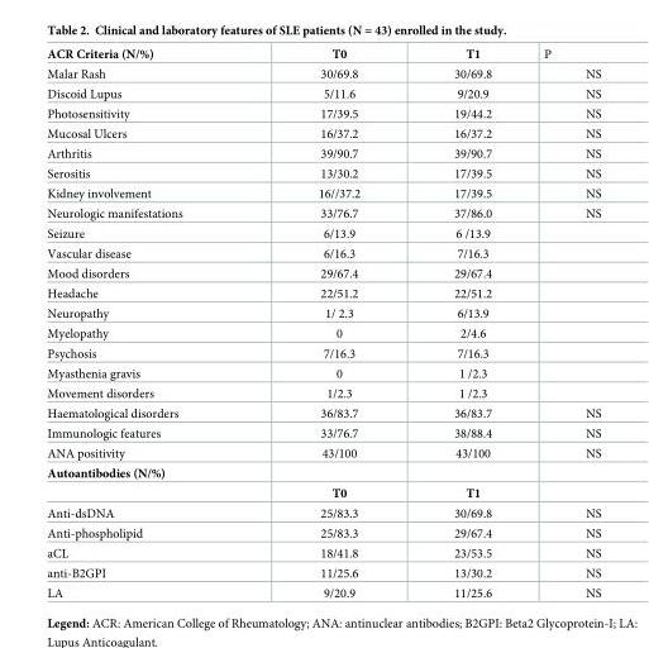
<table><tbody><tr><td>ACR Criteria (N/%)</td><td>T0</td><td>T1</td><td>P</td></tr><tr><td>Malar Rash</td><td>30/69.8</td><td>30/69.8</td><td>NS</td></tr><tr><td>Discoid Lupus</td><td>5/11.6</td><td>9/20.9</td><td>NS</td></tr><tr><td>Photosensitivity</td><td>17/39.5</td><td>19/44.2</td><td>NS</td></tr><tr><td>Mucosal Ulcers</td><td>16/37.2</td><td>16/37.2</td><td>NS</td></tr><tr><td>Arthritis</td><td>39/90.7</td><td>39/90.7</td><td>NS</td></tr><tr><td>Serositis</td><td>13/30.2</td><td>17/39.5</td><td>NS</td></tr><tr><td>Kidney involvement</td><td>16//37.2</td><td>17/39.5</td><td>NS</td></tr><tr><td>Neurologic manifestations</td><td>33/76.7</td><td>37/86.0</td><td>NS</td></tr><tr><td>Seizure</td><td>6/13.9</td><td>6 /13.9</td><td></td></tr><tr><td>Vascular disease</td><td>6/16.3</td><td>7/16.3</td><td></td></tr><tr><td>Mood disorders</td><td>29/67.4</td><td>29/67.4</td><td></td></tr><tr><td>Headache</td><td>22/51.2</td><td>22/51.2</td><td></td></tr><tr><td>Neuropathy</td><td>1/ 2.3</td><td>6/13.9</td><td></td></tr><tr><td>Myelopathy</td><td>0</td><td>2/4.6</td><td></td></tr><tr><td>Psychosis</td><td>7/16.3</td><td>7/16.3</td><td></td></tr><tr><td>Myasthenia gravis</td><td>0</td><td>1 /2.3</td><td></td></tr><tr><td>Movement disorders</td><td>1/2.3</td><td>1 /2.3</td><td></td></tr><tr><td>Haematological disorders</td><td>36/83.7</td><td>36/83.7</td><td>NS</td></tr><tr><td>Immunologic features</td><td>33/76.7</td><td>38/88.4</td><td>NS</td></tr><tr><td>ANA positivity</td><td>43/100</td><td>43/100</td><td>NS</td></tr><tr><td colspan="4">Autoantibodies (N/%)</td></tr><tr><td></td><td>T0</td><td>T1</td><td></td></tr><tr><td>Anti-dsDNA</td><td>25/83.3</td><td>30/69.8</td><td>NS</td></tr><tr><td>Anti-phospholipid</td><td>25/83.3</td><td>29/67.4</td><td>NS</td></tr><tr><td>aCL</td><td>18/41.8</td><td>23/53.5</td><td>NS</td></tr><tr><td>anti-B2GPI</td><td>11/25.6</td><td>13/30.2</td><td>NS</td></tr><tr><td>LA</td><td>9/20.9</td><td>11/25.6</td><td>NS</td></tr></tbody></table>